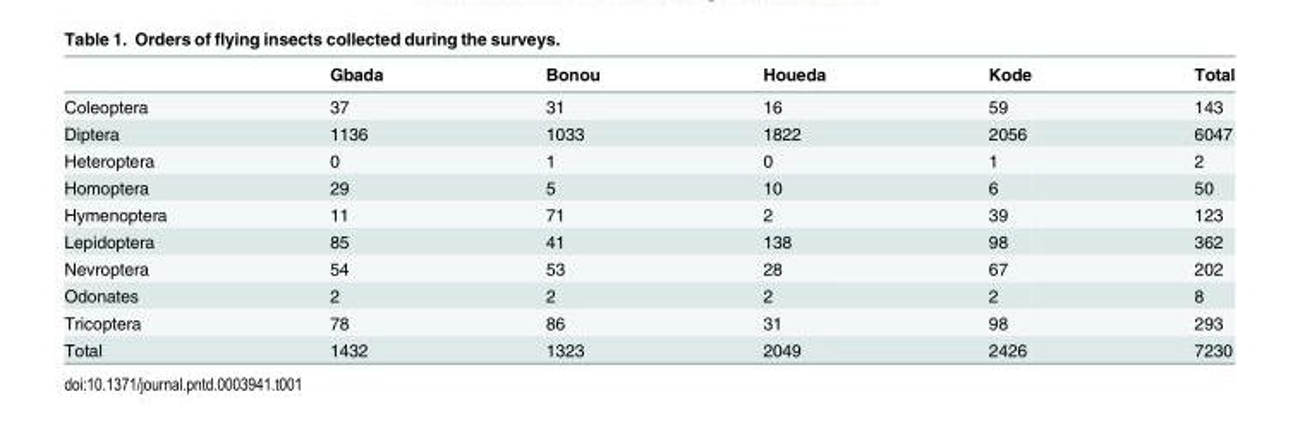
<table><thead><tr><td></td><td>Gbada</td><td>Bonou</td><td>Houeda</td><td>Kode</td><td>Total</td></tr></thead><tbody><tr><td>Coleoptera</td><td>37</td><td>31</td><td>16</td><td>59</td><td>143</td></tr><tr><td>Diptera</td><td>1136</td><td>1033</td><td>1822</td><td>2056</td><td>6047</td></tr><tr><td>Heteroptera</td><td>0</td><td>1</td><td>0</td><td>1</td><td>2</td></tr><tr><td>Homoptera</td><td>29</td><td>5</td><td>10</td><td>6</td><td>50</td></tr><tr><td>Hymenoptera</td><td>11</td><td>71</td><td>2</td><td>39</td><td>123</td></tr><tr><td>Lepidoptera</td><td>85</td><td>41</td><td>138</td><td>98</td><td>362</td></tr><tr><td>Nevroptera</td><td>54</td><td>53</td><td>28</td><td>67</td><td>202</td></tr><tr><td>Odonates</td><td>2</td><td>2</td><td>2</td><td>2</td><td>8</td></tr><tr><td>Tricoptera</td><td>78</td><td>86</td><td>31</td><td>98</td><td>293</td></tr><tr><td>Total</td><td>1432</td><td>1323</td><td>2049</td><td>2426</td><td>7230</td></tr></tbody></table>